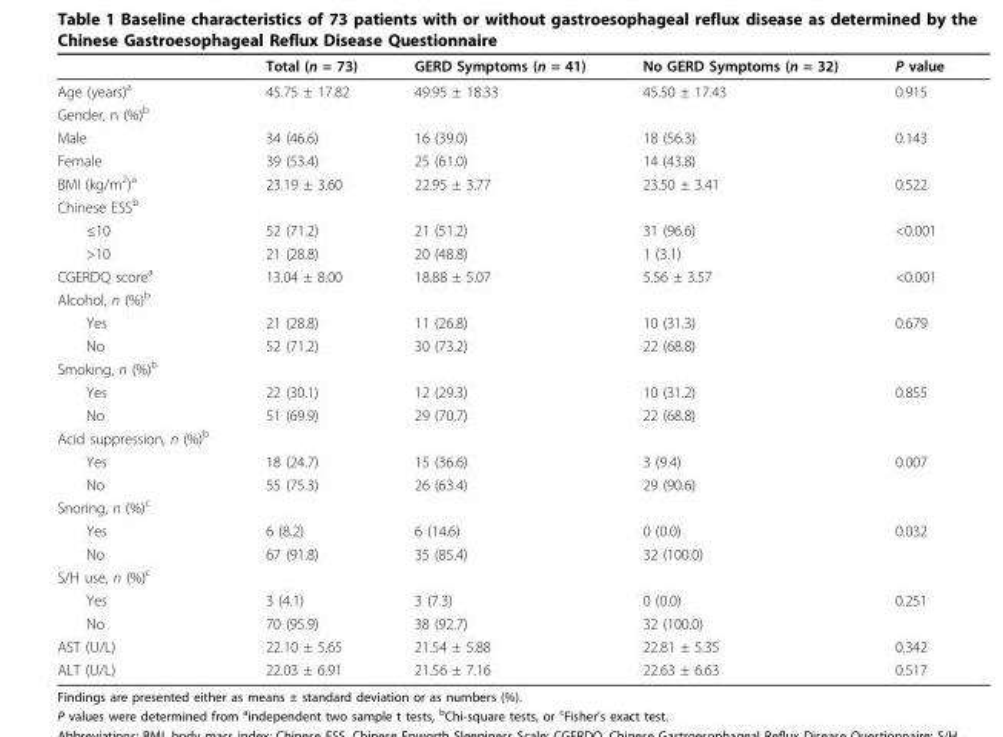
<table><thead><tr><td></td><td>Total (n = 73)</td><td>GERD Symptoms (n = 41)</td><td>No GERD Symptoms (n = 32)</td><td>P value</td></tr></thead><tbody><tr><td>Age (years)<sup>a</sup></td><td>45.75 ± 17.82</td><td>49.95 ± 18.33</td><td>45.50 ± 17.43</td><td>0.915</td></tr><tr><td colspan="5">Gender, n (%)<sup>b</sup></td></tr><tr><td>Male</td><td>34 (46.6)</td><td>16 (39.0)</td><td>18 (56.3)</td><td>0.143</td></tr><tr><td>Female</td><td>39 (53.4)</td><td>25 (61.0)</td><td>14 (43.8)</td><td></td></tr><tr><td>BMI (kg/m<sup>2</sup>)<sup>a</sup></td><td>23.19 ± 3.60</td><td>22.95 ± 3.77</td><td>23.50 ± 3.41</td><td>0.522</td></tr><tr><td colspan="5">Chinese ESS<sup>b</sup></td></tr><tr><td>≤10</td><td>52 (71.2)</td><td>21 (51.2)</td><td>31 (96.6)</td><td>&lt;0.001</td></tr><tr><td>&gt;10</td><td>21 (28.8)</td><td>20 (48.8)</td><td>1 (3.1)</td><td></td></tr><tr><td>CGERDQ score<sup>a</sup></td><td>13.04 ± 8.00</td><td>18.88 ± 5.07</td><td>5.56 ± 3.57</td><td>&lt;0.001</td></tr><tr><td colspan="5">Alcohol, n (%)<sup>b</sup></td></tr><tr><td>Yes</td><td>21 (28.8)</td><td>11 (26.8)</td><td>10 (31.3)</td><td>0.679</td></tr><tr><td>No</td><td>52 (71.2)</td><td>30 (73.2)</td><td>22 (68.8)</td><td></td></tr><tr><td colspan="5">Smoking, n (%)<sup>b</sup></td></tr><tr><td>Yes</td><td>22 (30.1)</td><td>12 (29.3)</td><td>10 (31.2)</td><td>0.855</td></tr><tr><td>No</td><td>51 (69.9)</td><td>29 (70.7)</td><td>22 (68.8)</td><td></td></tr><tr><td colspan="5">Acid suppression, n (%)<sup>b</sup></td></tr><tr><td>Yes</td><td>18 (24.7)</td><td>15 (36.6)</td><td>3 (9.4)</td><td>0.007</td></tr><tr><td>No</td><td>55 (75.3)</td><td>26 (63.4)</td><td>29 (90.6)</td><td></td></tr><tr><td colspan="5">Snoring, n (%)<sup>c</sup></td></tr><tr><td>Yes</td><td>6 (8.2)</td><td>6 (14.6)</td><td>0 (0.0)</td><td>0.032</td></tr><tr><td>No</td><td>67 (91.8)</td><td>35 (85.4)</td><td>32 (100.0)</td><td></td></tr><tr><td colspan="5">S/H use, n (%)<sup>c</sup></td></tr><tr><td>Yes</td><td>3 (4.1)</td><td>3 (7.3)</td><td>0 (0.0)</td><td>0.251</td></tr><tr><td>No</td><td>70 (95.9)</td><td>38 (92.7)</td><td>32 (100.0)</td><td></td></tr><tr><td>AST (U/L)</td><td>22.10 ± 5.65</td><td>21.54 ± 5.88</td><td>22.81 ± 5.35</td><td>0.342</td></tr><tr><td>ALT (U/L)</td><td>22.03 ± 6.91</td><td>21.56 ± 7.16</td><td>22.63 ± 6.63</td><td>0.517</td></tr></tbody></table>